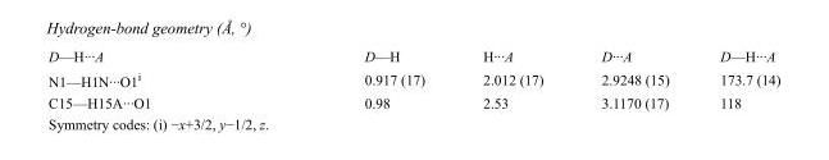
<table><tbody><tr><td>D—H···A</td><td>D—H</td><td>H···A</td><td>D···A</td><td>D—H···A</td></tr><tr><td>N1—H1N···O1<sup>i</sup></td><td>0.917 (17)</td><td>2.012 (17)</td><td>2.9248 (15)</td><td>173.7 (14)</td></tr><tr><td>C15—H15A···O1</td><td>0.98</td><td>2.53</td><td>3.1170 (17)</td><td>118</td></tr></tbody></table>